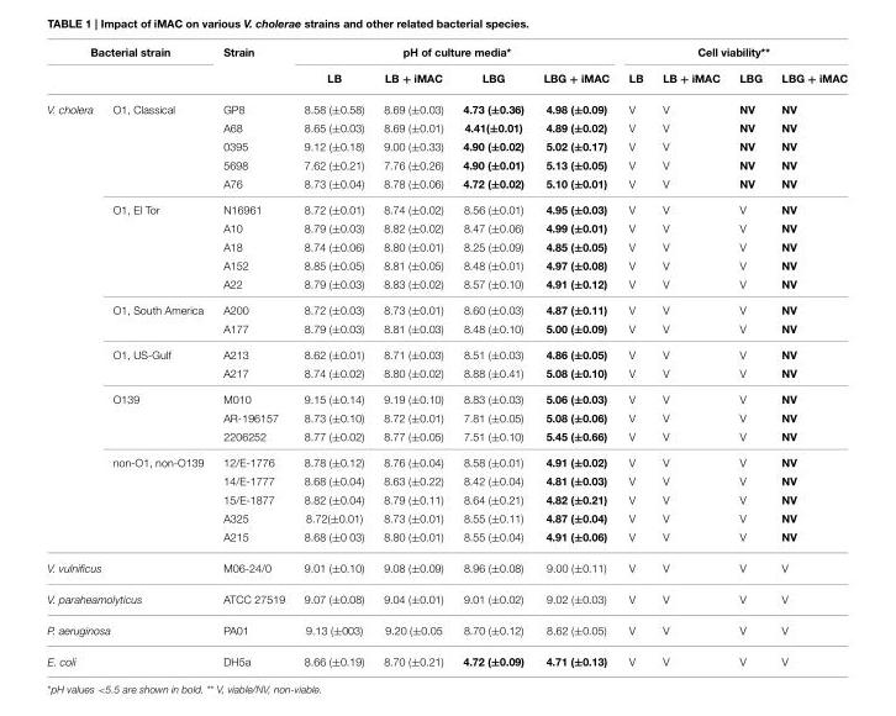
<table><thead><tr><td colspan="2">Bacterial strain</td><td rowspan="2">Strain</td><td colspan="4">pH of culture media*</td><td colspan="4">Cell viability**</td></tr><tr><td></td><td></td><td>LB</td><td>LB + iMAC</td><td>LBG</td><td>LBG + iMAC</td><td>LB</td><td>LB + iMAC</td><td>LBG</td><td>LBG + iMAC</td></tr></thead><tbody><tr><td rowspan="22">V. cholera</td><td>O1, Classical</td><td>GP8</td><td>8.58 (±0.58)</td><td>8.69 (±0.03)</td><td>4.73 (±0.36)</td><td>4.98 (±0.09)</td><td>V</td><td>V</td><td>NV</td><td>NV</td></tr><tr><td></td><td>A68</td><td>8.65 (±0.03)</td><td>8.69 (±0.01)</td><td>4.41(±0.01)</td><td>4.89 (±0.02)</td><td>V</td><td>V</td><td>NV</td><td>NV</td></tr><tr><td></td><td>0395</td><td>9.12 (±0.18)</td><td>9.00 (±0.33)</td><td>4.90 (±0.02)</td><td>5.02 (±0.17)</td><td>V</td><td>V</td><td>NV</td><td>NV</td></tr><tr><td></td><td>5698</td><td>7.62 (±0.21)</td><td>7.76 (±0.26)</td><td>4.90 (±0.01)</td><td>5.13 (±0.05)</td><td>V</td><td>V</td><td>NV</td><td>NV</td></tr><tr><td></td><td>A76</td><td>8.73 (±0.04)</td><td>8.78 (±0.06)</td><td>4.72 (±0.02)</td><td>5.10 (±0.01)</td><td>V</td><td>V</td><td>NV</td><td>NV</td></tr><tr><td>O1, El Tor</td><td>N16961</td><td>8.72 (±0.01)</td><td>8.74 (±0.02)</td><td>8.56 (±0.01)</td><td>4.95 (±0.03)</td><td>V</td><td>V</td><td>V</td><td>NV</td></tr><tr><td></td><td>A10</td><td>8.79 (±0.03)</td><td>8.82 (±0.02)</td><td>8.47 (±0.06)</td><td>4.99 (±0.01)</td><td>V</td><td>V</td><td>V</td><td>NV</td></tr><tr><td></td><td>A18</td><td>8.74 (±0.06)</td><td>8.80 (±0.01)</td><td>8.25 (±0.09)</td><td>4.85 (±0.05)</td><td>V</td><td>V</td><td>V</td><td>NV</td></tr><tr><td></td><td>A152</td><td>8.85 (±0.05)</td><td>8.81 (±0.05)</td><td>8.48 (±0.01)</td><td>4.97 (±0.08)</td><td>V</td><td>V</td><td>V</td><td>NV</td></tr><tr><td></td><td>A22</td><td>8.79 (±0.03)</td><td>8.83 (±0.02)</td><td>8.57 (±0.10)</td><td>4.91 (±0.12)</td><td>V</td><td>V</td><td>V</td><td>NV</td></tr><tr><td>O1, South America</td><td>A200</td><td>8.72 (±0.03)</td><td>8.73 (±0.01)</td><td>8.60 (±0.03)</td><td>4.87 (±0.11)</td><td>V</td><td>V</td><td>V</td><td>NV</td></tr><tr><td></td><td>A177</td><td>8.79 (±0.03)</td><td>8.81 (±0.03)</td><td>8.48 (±0.10)</td><td>5.00 (±0.09)</td><td>V</td><td>V</td><td>V</td><td>NV</td></tr><tr><td>O1, US-Gulf</td><td>A213</td><td>8.62 (±0.01)</td><td>8.71 (±0.03)</td><td>8.51 (±0.03)</td><td>4.86 (±0.05)</td><td>V</td><td>V</td><td>V</td><td>NV</td></tr><tr><td></td><td>A217</td><td>8.74 (±0.02)</td><td>8.80 (±0.02)</td><td>8.88 (±0.41)</td><td>5.08 (±0.10)</td><td>V</td><td>V</td><td>V</td><td>NV</td></tr><tr><td>O139</td><td>M010</td><td>9.15 (±0.14)</td><td>9.19 (±0.10)</td><td>8.83 (±0.03)</td><td>5.06 (±0.03)</td><td>V</td><td>V</td><td>V</td><td>NV</td></tr><tr><td></td><td>AR-196157</td><td>8.73 (±0.10)</td><td>8.72 (±0.01)</td><td>7.81 (±0.05)</td><td>5.08 (±0.06)</td><td>V</td><td>V</td><td>V</td><td>NV</td></tr><tr><td></td><td>2206252</td><td>8.77 (±0.02)</td><td>8.77 (±0.05)</td><td>7.51 (±0.10)</td><td>5.45 (±0.66)</td><td>V</td><td>V</td><td>V</td><td>NV</td></tr><tr><td>non-O1, non-O139</td><td>12/E-1776</td><td>8.78 (±0.12)</td><td>8.76 (±0.04)</td><td>8.58 (±0.01)</td><td>4.91 (±0.02)</td><td>V</td><td>V</td><td>V</td><td>NV</td></tr><tr><td></td><td>14/E-1777</td><td>8.68 (±0.04)</td><td>8.63 (±0.22)</td><td>8.42 (±0.04)</td><td>4.81 (±0.03)</td><td>V</td><td>V</td><td>V</td><td>NV</td></tr><tr><td></td><td>15/E-1877</td><td>8.82 (±0.04)</td><td>8.79 (±0.11)</td><td>8.64 (±0.21)</td><td>4.82 (±0.21)</td><td>V</td><td>V</td><td>V</td><td>NV</td></tr><tr><td></td><td>A325</td><td>8.72(±0.01)</td><td>8.73 (±0.01)</td><td>8.55 (±0.11)</td><td>4.87 (±0.04)</td><td>V</td><td>V</td><td>V</td><td>NV</td></tr><tr><td></td><td>A215</td><td>8.68 (±0 03)</td><td>8.80 (±0.01)</td><td>8.55 (±0.04)</td><td>4.91 (±0.06)</td><td>V</td><td>V</td><td>V</td><td>NV</td></tr><tr><td colspan="2">V. vulnificus</td><td>M06-24/0</td><td>9.01 (±0.10)</td><td>9.08 (±0.09)</td><td>8.96 (±0.08)</td><td>9.00 (±0.11)</td><td>V</td><td>V</td><td>V</td><td>V</td></tr><tr><td colspan="2">V. paraheamolyticus</td><td>ATCC 27519</td><td>9.07 (±0.08)</td><td>9.04 (±0.01)</td><td>9.01 (±0.02)</td><td>9.02 (±0.03)</td><td>V</td><td>V</td><td>V</td><td>V</td></tr><tr><td colspan="2">P. aeruginosa</td><td>PA01</td><td>9.13 (±003)</td><td>9.20 (±0.05</td><td>8.70 (±0.12)</td><td>8.62 (±0.05)</td><td>V</td><td>V</td><td>V</td><td>V</td></tr><tr><td colspan="2">E. coli</td><td>DH5a</td><td>8.66 (±0.19)</td><td>8.70 (±0.21)</td><td>4.72 (±0.09)</td><td>4.71 (±0.13)</td><td>V</td><td>V</td><td>V</td><td>V</td></tr></tbody></table>